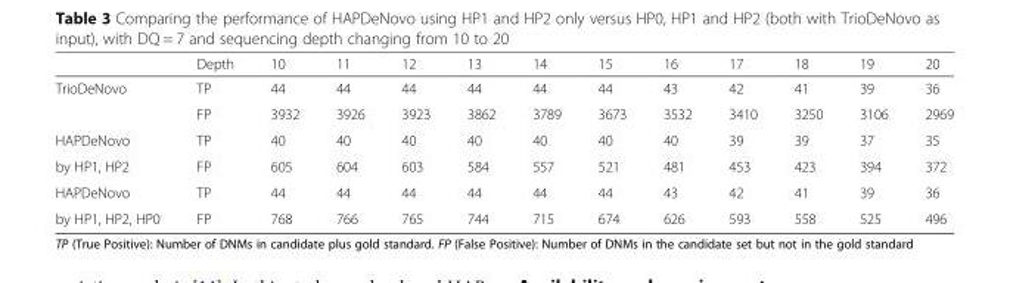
<table><thead><tr><td></td><td>Depth</td><td>10</td><td>11</td><td>12</td><td>13</td><td>14</td><td>15</td><td>16</td><td>17</td><td>18</td><td>19</td><td>20</td></tr></thead><tbody><tr><td rowspan="2">TrioDeNovo</td><td>TP</td><td>44</td><td>44</td><td>44</td><td>44</td><td>44</td><td>44</td><td>43</td><td>42</td><td>41</td><td>39</td><td>36</td></tr><tr><td>FP</td><td>3932</td><td>3926</td><td>3923</td><td>3862</td><td>3789</td><td>3673</td><td>3532</td><td>3410</td><td>3250</td><td>3106</td><td>2969</td></tr><tr><td>HAPDeNovo</td><td>TP</td><td>40</td><td>40</td><td>40</td><td>40</td><td>40</td><td>40</td><td>40</td><td>39</td><td>39</td><td>37</td><td>35</td></tr><tr><td>by HP1, HP2</td><td>FP</td><td>605</td><td>604</td><td>603</td><td>584</td><td>557</td><td>521</td><td>481</td><td>453</td><td>423</td><td>394</td><td>372</td></tr><tr><td>HAPDeNovo</td><td>TP</td><td>44</td><td>44</td><td>44</td><td>44</td><td>44</td><td>44</td><td>43</td><td>42</td><td>41</td><td>39</td><td>36</td></tr><tr><td>by HP1, HP2, HP0</td><td>FP</td><td>768</td><td>766</td><td>765</td><td>744</td><td>715</td><td>674</td><td>626</td><td>593</td><td>558</td><td>525</td><td>496</td></tr></tbody></table>